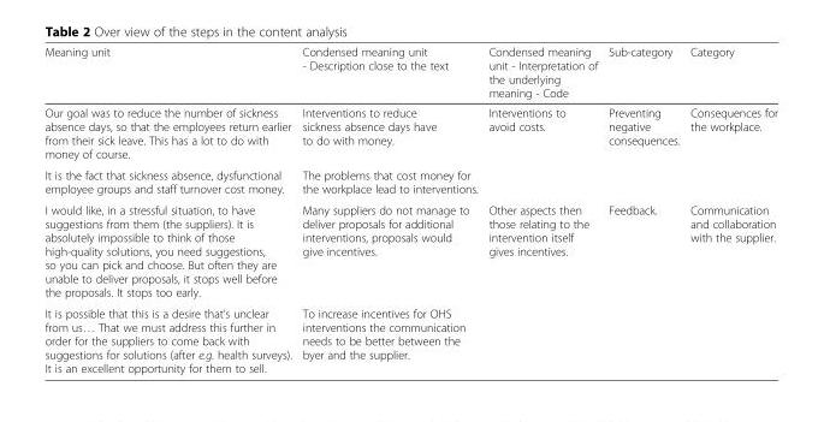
<table><thead><tr><td>Meaning unit</td><td>Condensed meaning unit - Description close to the text</td><td>Condensed meaning unit - Interpretation of the underlying meaning - Code</td><td>Sub-category</td><td>Category</td></tr></thead><tbody><tr><td>Our goal was to reduce the number of sickness absence days, so that the employees return earlier from their sick leave. This has a lot to do with money of course.</td><td>Interventions to reduce sickness absence days have to do with money.</td><td rowspan="2">Interventions to avoid costs.</td><td rowspan="2">Preventing negative consequences.</td><td rowspan="2">Consequences for the workplace.</td></tr><tr><td>It is the fact that sickness absence, dysfunctional employee groups and staff turnover cost money.</td><td>The problems that cost money for the workplace lead to interventions.</td></tr><tr><td>I would like, in a stressful situation, to have suggestions from them (the suppliers). It is absolutely impossible to think of those high-quality solutions, you need suggestions, so you can pick and choose. But often they are unable to deliver proposals, it stops well before the proposals. It stops too early.</td><td>Many suppliers do not manage to deliver proposals for additional interventions, proposals would give incentives.</td><td rowspan="2">Other aspects then those relating to the intervention itself gives incentives.</td><td rowspan="2">Feedback.</td><td rowspan="2">Communication and collaboration with the supplier.</td></tr><tr><td>It is possible that this is a desire that’s unclear from us… That we must address this further in order for the suppliers to come back with suggestions for solutions (after e.g. health surveys). It is an excellent opportunity for them to sell.</td><td>To increase incentives for OHS interventions the communication needs to be better between the byer and the supplier.</td></tr></tbody></table>